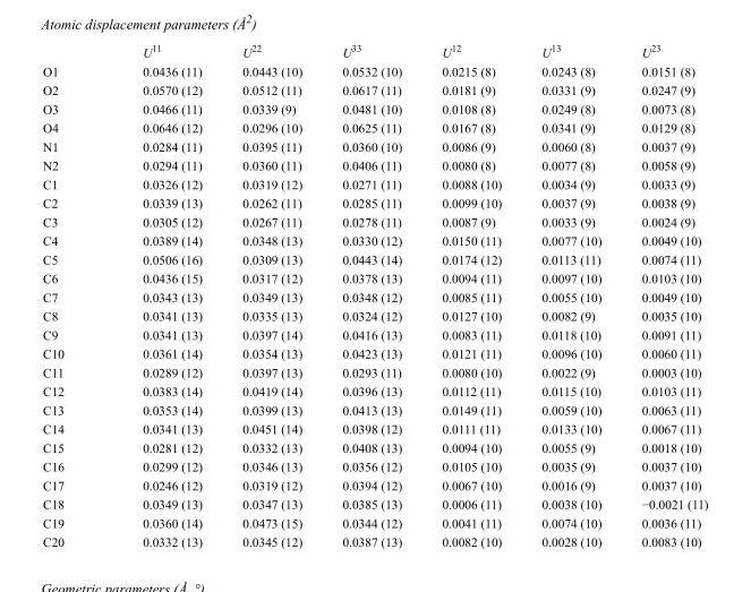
<table><thead><tr><td></td><td>U<sup>11</sup></td><td>U<sup>22</sup></td><td>U<sup>33</sup></td><td>U<sup>12</sup></td><td>U<sup>13</sup></td><td>U<sup>23</sup></td></tr></thead><tbody><tr><td>O1</td><td>0.0436 (11)</td><td>0.0443 (10)</td><td>0.0532 (10)</td><td>0.0215 (8)</td><td>0.0243 (8)</td><td>0.0151 (8)</td></tr><tr><td>O2</td><td>0.0570 (12)</td><td>0.0512 (11)</td><td>0.0617 (11)</td><td>0.0181 (9)</td><td>0.0331 (9)</td><td>0.0247 (9)</td></tr><tr><td>O3</td><td>0.0466 (11)</td><td>0.0339 (9)</td><td>0.0481 (10)</td><td>0.0108 (8)</td><td>0.0249 (8)</td><td>0.0073 (8)</td></tr><tr><td>O4</td><td>0.0646 (12)</td><td>0.0296 (10)</td><td>0.0625 (11)</td><td>0.0167 (8)</td><td>0.0341 (9)</td><td>0.0129 (8)</td></tr><tr><td>N1</td><td>0.0284 (11)</td><td>0.0395 (11)</td><td>0.0360 (10)</td><td>0.0086 (9)</td><td>0.0060 (8)</td><td>0.0037 (9)</td></tr><tr><td>N2</td><td>0.0294 (11)</td><td>0.0360 (11)</td><td>0.0406 (11)</td><td>0.0080 (8)</td><td>0.0077 (8)</td><td>0.0058 (9)</td></tr><tr><td>C1</td><td>0.0326 (12)</td><td>0.0319 (12)</td><td>0.0271 (11)</td><td>0.0088 (10)</td><td>0.0034 (9)</td><td>0.0033 (9)</td></tr><tr><td>C2</td><td>0.0339 (13)</td><td>0.0262 (11)</td><td>0.0285 (11)</td><td>0.0099 (10)</td><td>0.0037 (9)</td><td>0.0038 (9)</td></tr><tr><td>C3</td><td>0.0305 (12)</td><td>0.0267 (11)</td><td>0.0278 (11)</td><td>0.0087 (9)</td><td>0.0033 (9)</td><td>0.0024 (9)</td></tr><tr><td>C4</td><td>0.0389 (14)</td><td>0.0348 (13)</td><td>0.0330 (12)</td><td>0.0150 (11)</td><td>0.0077 (10)</td><td>0.0049 (10)</td></tr><tr><td>C5</td><td>0.0506 (16)</td><td>0.0309 (13)</td><td>0.0443 (14)</td><td>0.0174 (12)</td><td>0.0113 (11)</td><td>0.0074 (11)</td></tr><tr><td>C6</td><td>0.0436 (15)</td><td>0.0317 (12)</td><td>0.0378 (13)</td><td>0.0094 (11)</td><td>0.0097 (10)</td><td>0.0103 (10)</td></tr><tr><td>C7</td><td>0.0343 (13)</td><td>0.0349 (13)</td><td>0.0348 (12)</td><td>0.0085 (11)</td><td>0.0055 (10)</td><td>0.0049 (10)</td></tr><tr><td>C8</td><td>0.0341 (13)</td><td>0.0335 (13)</td><td>0.0324 (12)</td><td>0.0127 (10)</td><td>0.0082 (9)</td><td>0.0035 (10)</td></tr><tr><td>C9</td><td>0.0341 (13)</td><td>0.0397 (14)</td><td>0.0416 (13)</td><td>0.0083 (11)</td><td>0.0118 (10)</td><td>0.0091 (11)</td></tr><tr><td>C10</td><td>0.0361 (14)</td><td>0.0354 (13)</td><td>0.0423 (13)</td><td>0.0121 (11)</td><td>0.0096 (10)</td><td>0.0060 (11)</td></tr><tr><td>C11</td><td>0.0289 (12)</td><td>0.0397 (13)</td><td>0.0293 (11)</td><td>0.0080 (10)</td><td>0.0022 (9)</td><td>0.0003 (10)</td></tr><tr><td>C12</td><td>0.0383 (14)</td><td>0.0419 (14)</td><td>0.0396 (13)</td><td>0.0112 (11)</td><td>0.0115 (10)</td><td>0.0103 (11)</td></tr><tr><td>C13</td><td>0.0353 (14)</td><td>0.0399 (13)</td><td>0.0413 (13)</td><td>0.0149 (11)</td><td>0.0059 (10)</td><td>0.0063 (11)</td></tr><tr><td>C14</td><td>0.0341 (13)</td><td>0.0451 (14)</td><td>0.0398 (12)</td><td>0.0111 (11)</td><td>0.0133 (10)</td><td>0.0067 (11)</td></tr><tr><td>C15</td><td>0.0281 (12)</td><td>0.0332 (13)</td><td>0.0408 (13)</td><td>0.0094 (10)</td><td>0.0055 (9)</td><td>0.0018 (10)</td></tr><tr><td>C16</td><td>0.0299 (12)</td><td>0.0346 (13)</td><td>0.0356 (12)</td><td>0.0105 (10)</td><td>0.0035 (9)</td><td>0.0037 (10)</td></tr><tr><td>C17</td><td>0.0246 (12)</td><td>0.0319 (12)</td><td>0.0394 (12)</td><td>0.0067 (10)</td><td>0.0016 (9)</td><td>0.0037 (10)</td></tr><tr><td>C18</td><td>0.0349 (13)</td><td>0.0347 (13)</td><td>0.0385 (13)</td><td>0.0006 (11)</td><td>0.0038 (10)</td><td>−0.0021 (11)</td></tr><tr><td>C19</td><td>0.0360 (14)</td><td>0.0473 (15)</td><td>0.0344 (12)</td><td>0.0041 (11)</td><td>0.0074 (10)</td><td>0.0036 (11)</td></tr><tr><td>C20</td><td>0.0332 (13)</td><td>0.0345 (12)</td><td>0.0387 (13)</td><td>0.0082 (10)</td><td>0.0028 (10)</td><td>0.0083 (10)</td></tr></tbody></table>